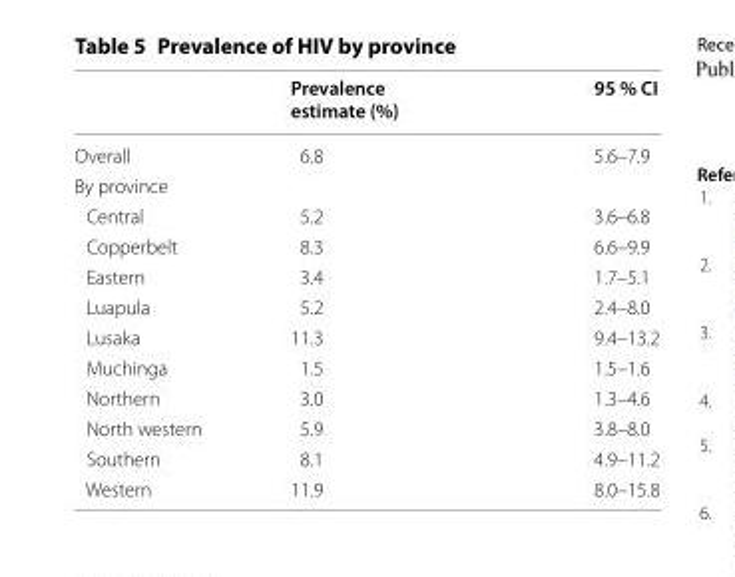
<table><thead><tr><td></td><td>Prevalence estimate (%)</td><td>95 % CI</td></tr></thead><tbody><tr><td>Overall</td><td>6.8</td><td>5.6–7.9</td></tr><tr><td colspan="3">By province</td></tr><tr><td>Central</td><td>5.2</td><td>3.6–6.8</td></tr><tr><td>Copperbelt</td><td>8.3</td><td>6.6–9.9</td></tr><tr><td>Eastern</td><td>3.4</td><td>1.7–5.1</td></tr><tr><td>Luapula</td><td>5.2</td><td>2.4–8.0</td></tr><tr><td>Lusaka</td><td>11.3</td><td>9.4–13.2</td></tr><tr><td>Muchinga</td><td>1.5</td><td>1.5–1.6</td></tr><tr><td>Northern</td><td>3.0</td><td>1.3–4.6</td></tr><tr><td>North western</td><td>5.9</td><td>3.8–8.0</td></tr><tr><td>Southern</td><td>8.1</td><td>4.9–11.2</td></tr><tr><td>Western</td><td>11.9</td><td>8.0–15.8</td></tr></tbody></table>